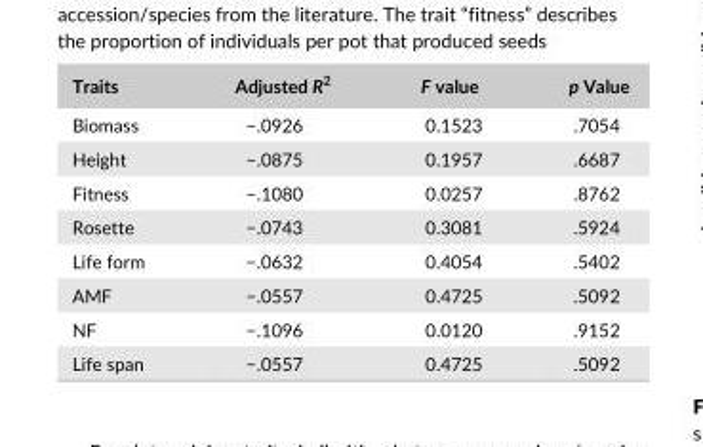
<table><thead><tr><td>Traits</td><td>Adjusted R<sup>2</sup></td><td>F value</td><td>p Value</td></tr></thead><tbody><tr><td>Biomass</td><td>−.0926</td><td>0.1523</td><td>.7054</td></tr><tr><td>Height</td><td>−.0875</td><td>0.1957</td><td>.6687</td></tr><tr><td>Fitness</td><td>−.1080</td><td>0.0257</td><td>.8762</td></tr><tr><td>Rosette</td><td>−.0743</td><td>0.3081</td><td>.5924</td></tr><tr><td>Life form</td><td>−.0632</td><td>0.4054</td><td>.5402</td></tr><tr><td>AMF</td><td>−.0557</td><td>0.4725</td><td>.5092</td></tr><tr><td>NF</td><td>−.1096</td><td>0.0120</td><td>.9152</td></tr><tr><td>Life span</td><td>−.0557</td><td>0.4725</td><td>.5092</td></tr></tbody></table>